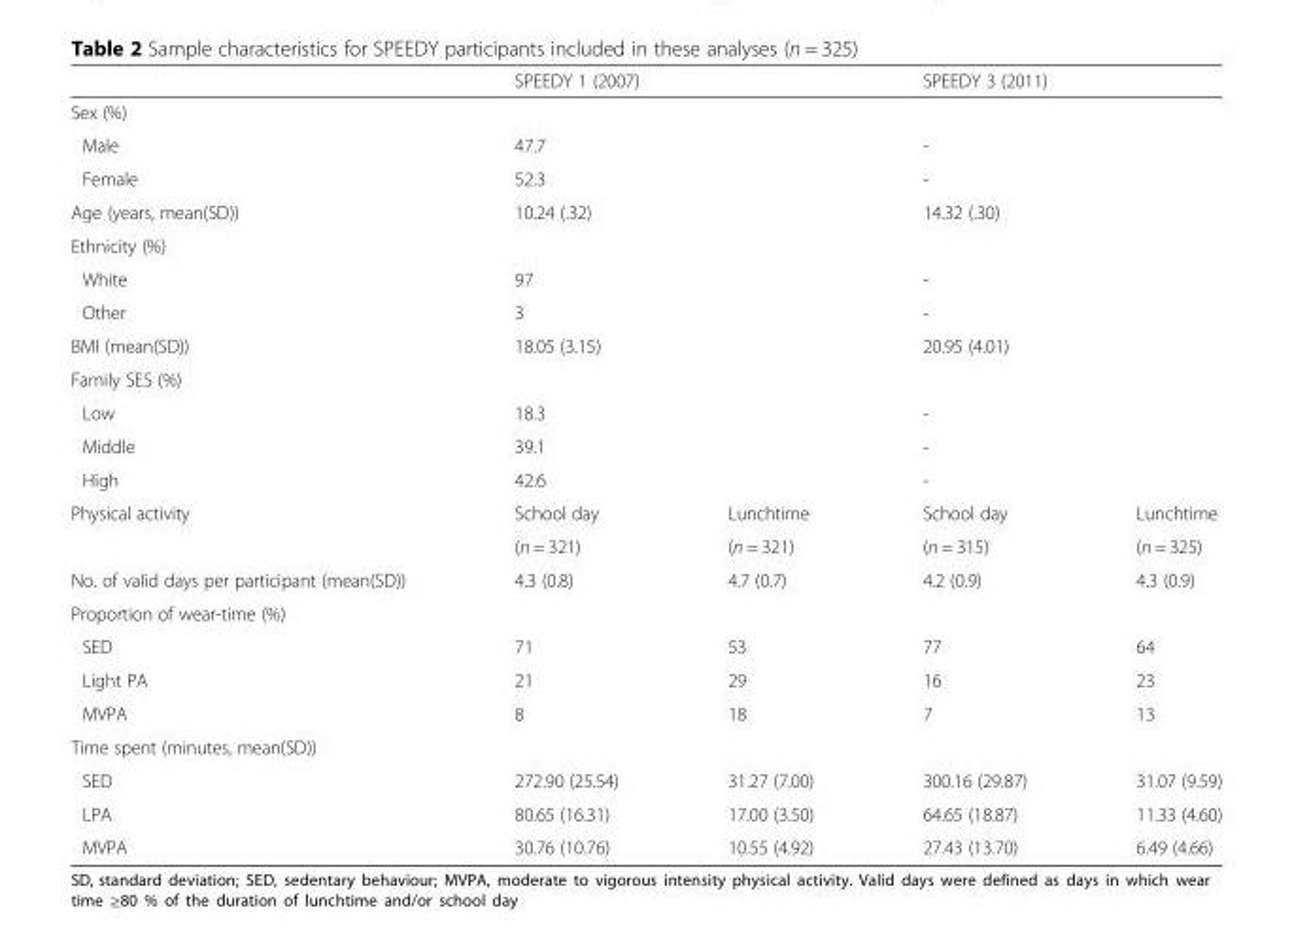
<table><thead><tr><td></td><td colspan="2">SPEEDY 1 (2007)</td><td colspan="2">SPEEDY 3 (2011)</td></tr></thead><tbody><tr><td colspan="5">Sex (%)</td></tr><tr><td>Male</td><td colspan="2">47.7</td><td colspan="2">-</td></tr><tr><td>Female</td><td colspan="2">52.3</td><td colspan="2">-</td></tr><tr><td>Age (years, mean(SD))</td><td colspan="2">10.24 (.32)</td><td colspan="2">14.32 (.30)</td></tr><tr><td colspan="5">Ethnicity (%)</td></tr><tr><td>White</td><td colspan="2">97</td><td colspan="2">-</td></tr><tr><td>Other</td><td colspan="2">3</td><td colspan="2">-</td></tr><tr><td>BMI (mean(SD))</td><td colspan="2">18.05 (3.15)</td><td colspan="2">20.95 (4.01)</td></tr><tr><td colspan="5">Family SES (%)</td></tr><tr><td>Low</td><td colspan="2">18.3</td><td colspan="2">-</td></tr><tr><td>Middle</td><td colspan="2">39.1</td><td colspan="2">-</td></tr><tr><td>High</td><td colspan="2">42.6</td><td colspan="2">-</td></tr><tr><td rowspan="2">Physical activity</td><td>School day</td><td>Lunchtime</td><td>School day</td><td>Lunchtime</td></tr><tr><td>(n = 321)</td><td>(n = 321)</td><td>(n = 315)</td><td>(n = 325)</td></tr><tr><td>No. of valid days per participant (mean(SD))</td><td rowspan="2">4.3 (0.8)</td><td rowspan="2">4.7 (0.7)</td><td rowspan="2">4.2 (0.9)</td><td rowspan="2">4.3 (0.9)</td></tr><tr><td>Proportion of wear-time (%)</td></tr><tr><td>SED</td><td>71</td><td>53</td><td>77</td><td>64</td></tr><tr><td>Light PA</td><td>21</td><td>29</td><td>16</td><td>23</td></tr><tr><td>MVPA</td><td>8</td><td>18</td><td>7</td><td>13</td></tr><tr><td colspan="5">Time spent (minutes, mean(SD))</td></tr><tr><td>SED</td><td>272.90 (25.54)</td><td>31.27 (7.00)</td><td>300.16 (29.87)</td><td>31.07 (9.59)</td></tr><tr><td>LPA</td><td>80.65 (16.31)</td><td>17.00 (3.50)</td><td>64.65 (18.87)</td><td>11.33 (4.60)</td></tr><tr><td>MVPA</td><td>30.76 (10.76)</td><td>10.55 (4.92)</td><td>27.43 (13.70)</td><td>6.49 (4.66)</td></tr></tbody></table>